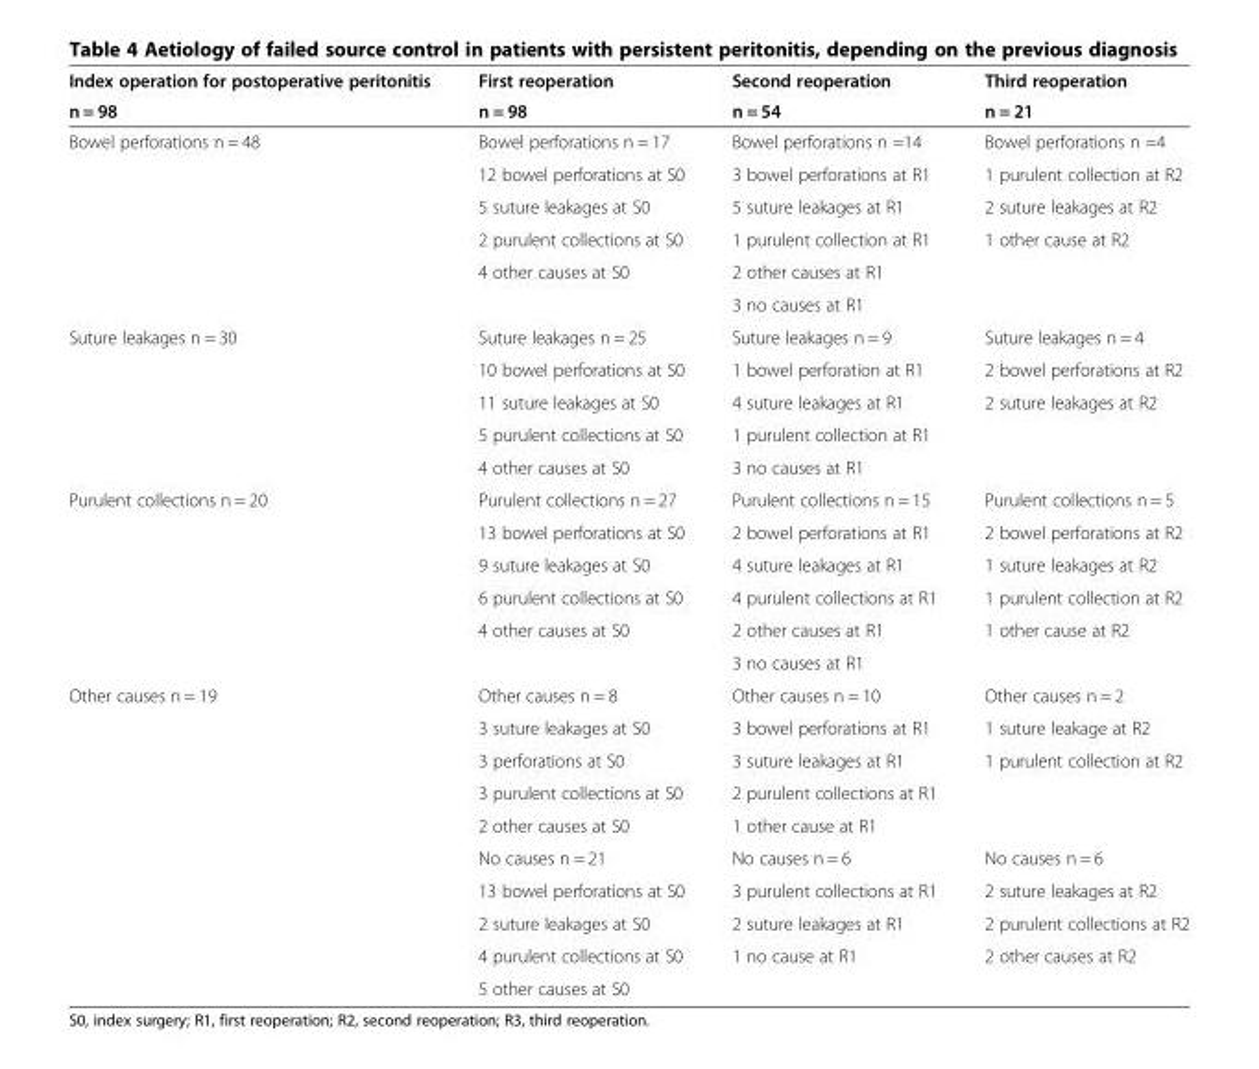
<table><thead><tr><td rowspan="2">Index operation for postoperative peritonitis n = 98</td><td rowspan="2">First reoperation n = 98</td><td rowspan="2">Second reoperation n = 54</td><td rowspan="2">Third reoperation n = 21</td></tr><tr></tr></thead><tbody><tr><td rowspan="6">Bowel perforations n = 48</td><td>Bowel perforations n = 17</td><td>Bowel perforations n =14</td><td>Bowel perforations n =4</td></tr><tr><td>12 bowel perforations at S0</td><td>3 bowel perforations at R1</td><td>1 purulent collection at R2</td></tr><tr><td>5 suture leakages at S0</td><td>5 suture leakages at R1</td><td>2 suture leakages at R2</td></tr><tr><td>2 purulent collections at S0</td><td>1 purulent collection at R1</td><td rowspan="3">1 other cause at R2</td></tr><tr><td rowspan="2">4 other causes at S0</td><td>2 other causes at R1</td></tr><tr><td>3 no causes at R1</td></tr><tr><td rowspan="5">Suture leakages n = 30</td><td>Suture leakages n = 25</td><td>Suture leakages n = 9</td><td>Suture leakages n = 4</td></tr><tr><td>10 bowel perforations at S0</td><td>1 bowel perforation at R1</td><td>2 bowel perforations at R2</td></tr><tr><td>11 suture leakages at S0</td><td>4 suture leakages at R1</td><td rowspan="3">2 suture leakages at R2</td></tr><tr><td>5 purulent collections at S0</td><td>1 purulent collection at R1</td></tr><tr><td>4 other causes at S0</td><td>3 no causes at R1</td></tr><tr><td rowspan="6">Purulent collections n = 20</td><td>Purulent collections n = 27</td><td>Purulent collections n = 15</td><td>Purulent collections n = 5</td></tr><tr><td>13 bowel perforations at S0</td><td>2 bowel perforations at R1</td><td>2 bowel perforations at R2</td></tr><tr><td>9 suture leakages at S0</td><td>4 suture leakages at R1</td><td>1 suture leakages at R2</td></tr><tr><td>6 purulent collections at S0</td><td>4 purulent collections at R1</td><td>1 purulent collection at R2</td></tr><tr><td rowspan="2">4 other causes at S0</td><td>2 other causes at R1</td><td rowspan="2">1 other cause at R2</td></tr><tr><td>3 no causes at R1</td></tr><tr><td rowspan="10">Other causes n = 19</td><td>Other causes n = 8</td><td>Other causes n = 10</td><td>Other causes n = 2</td></tr><tr><td>3 suture leakages at S0</td><td>3 bowel perforations at R1</td><td>1 suture leakage at R2</td></tr><tr><td>3 perforations at S0</td><td>3 suture leakages at R1</td><td rowspan="3">1 purulent collection at R2</td></tr><tr><td>3 purulent collections at S0</td><td>2 purulent collections at R1</td></tr><tr><td>2 other causes at S0</td><td>1 other cause at R1</td></tr><tr><td>No causes n = 21</td><td>No causes n = 6</td><td>No causes n = 6</td></tr><tr><td>13 bowel perforations at S0</td><td>3 purulent collections at R1</td><td>2 suture leakages at R2</td></tr><tr><td>2 suture leakages at S0</td><td>2 suture leakages at R1</td><td>2 purulent collections at R2</td></tr><tr><td>4 purulent collections at S0</td><td>1 no cause at R1</td><td>2 other causes at R2</td></tr><tr><td>5 other causes at S0</td><td></td><td></td></tr></tbody></table>